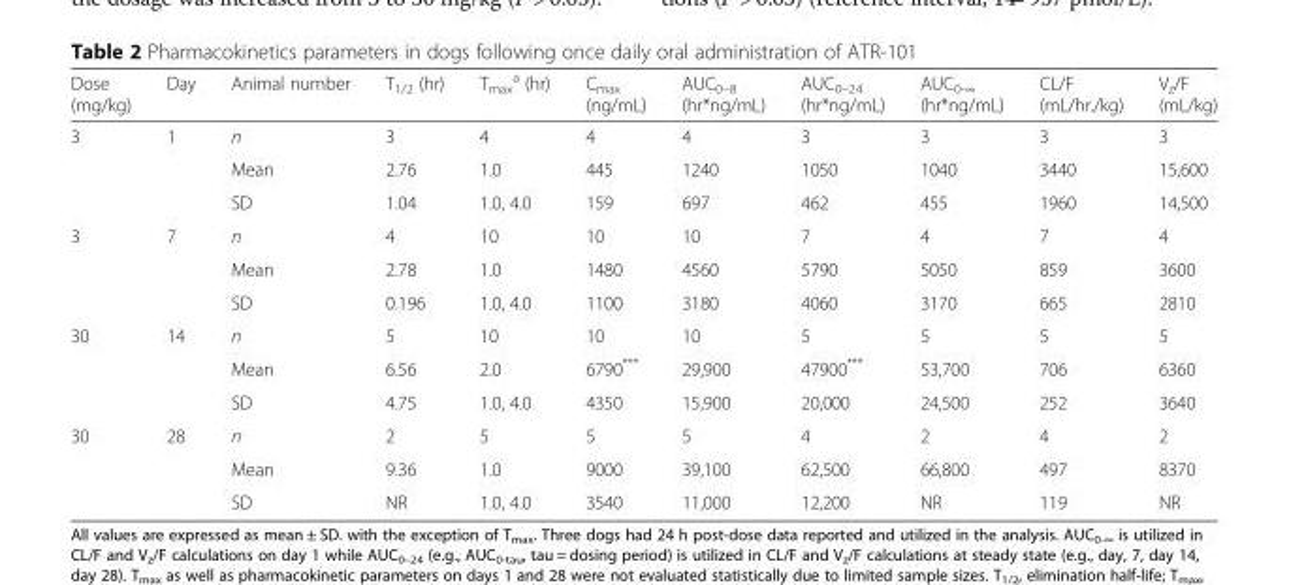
<table><thead><tr><td>Dose (mg/kg)</td><td>Day</td><td>Animal number</td><td>T<sub>1/2</sub> (hr)</td><td>T<sub>max</sub> <sup>a</sup> (hr)</td><td>C<sub>max</sub> (ng/mL)</td><td>AUC<sub>0–8</sub> (hr*ng/mL)</td><td>AUC<sub>0–24</sub> (hr*ng/mL)</td><td>AUC<sub>0-∞</sub> (hr*ng/mL)</td><td>CL/F (mL/hr./kg)</td><td>V<sub>z</sub>/F (mL/kg)</td></tr></thead><tbody><tr><td rowspan="3">3</td><td>1</td><td>n</td><td>3</td><td>4</td><td>4</td><td>4</td><td>3</td><td>3</td><td>3</td><td>3</td></tr><tr><td></td><td>Mean</td><td>2.76</td><td>1.0</td><td>445</td><td>1240</td><td>1050</td><td>1040</td><td>3440</td><td>15,600</td></tr><tr><td></td><td>SD</td><td>1.04</td><td>1.0, 4.0</td><td>159</td><td>697</td><td>462</td><td>455</td><td>1960</td><td>14,500</td></tr><tr><td rowspan="3">3</td><td>7</td><td>n</td><td>4</td><td>10</td><td>10</td><td>10</td><td>7</td><td>4</td><td>7</td><td>4</td></tr><tr><td></td><td>Mean</td><td>2.78</td><td>1.0</td><td>1480</td><td>4560</td><td>5790</td><td>5050</td><td>859</td><td>3600</td></tr><tr><td></td><td>SD</td><td>0.196</td><td>1.0, 4.0</td><td>1100</td><td>3180</td><td>4060</td><td>3170</td><td>665</td><td>2810</td></tr><tr><td rowspan="3">30</td><td>14</td><td>n</td><td>5</td><td>10</td><td>10</td><td>10</td><td>5</td><td>5</td><td>5</td><td>5</td></tr><tr><td></td><td>Mean</td><td>6.56</td><td>2.0</td><td>6790***</td><td>29,900</td><td>47900***</td><td>53,700</td><td>706</td><td>6360</td></tr><tr><td></td><td>SD</td><td>4.75</td><td>1.0, 4.0</td><td>4350</td><td>15,900</td><td>20,000</td><td>24,500</td><td>252</td><td>3640</td></tr><tr><td rowspan="3">30</td><td>28</td><td>n</td><td>2</td><td>5</td><td>5</td><td>5</td><td>4</td><td>2</td><td>4</td><td>2</td></tr><tr><td></td><td>Mean</td><td>9.36</td><td>1.0</td><td>9000</td><td>39,100</td><td>62,500</td><td>66,800</td><td>497</td><td>8370</td></tr><tr><td></td><td>SD</td><td>NR</td><td>1.0, 4.0</td><td>3540</td><td>11,000</td><td>12,200</td><td>NR</td><td>119</td><td>NR</td></tr></tbody></table>